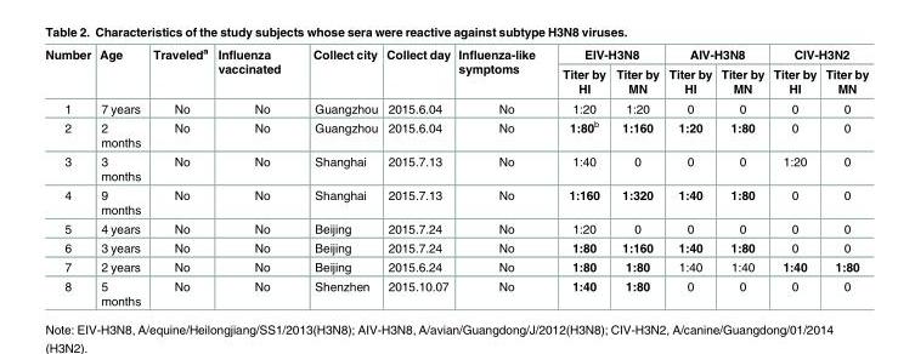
<table><thead><tr><td rowspan="2">Number</td><td rowspan="2">Age</td><td rowspan="2">Traveled<sup>a</sup></td><td rowspan="2">Influenza vaccinated</td><td rowspan="2">Collect city</td><td rowspan="2">Collect day</td><td rowspan="2">Influenza-like symptoms</td><td colspan="2">EIV-H3N8</td><td colspan="2">AIV-H3N8</td><td colspan="2">CIV-H3N2</td></tr><tr><td>Titer by HI</td><td>Titer by MN</td><td>Titer by HI</td><td>Titer by MN</td><td>Titer by HI</td><td>Titer by MN</td></tr></thead><tbody><tr><td>1</td><td>7 years</td><td>No</td><td>No</td><td>Guangzhou</td><td>2015.6.04</td><td>No</td><td>1:20</td><td>1:20</td><td>0</td><td>0</td><td>0</td><td>0</td></tr><tr><td>2</td><td>2 months</td><td>No</td><td>No</td><td>Guangzhou</td><td>2015.6.04</td><td>No</td><td>1:80<sup>b</sup></td><td>1:160</td><td>1:20</td><td>1:80</td><td>0</td><td>0</td></tr><tr><td>3</td><td>3 months</td><td>No</td><td>No</td><td>Shanghai</td><td>2015.7.13</td><td>No</td><td>1:40</td><td>0</td><td>0</td><td>0</td><td>1:20</td><td>0</td></tr><tr><td>4</td><td>9 months</td><td>No</td><td>No</td><td>Shanghai</td><td>2015.7.13</td><td>No</td><td>1:160</td><td>1:320</td><td>1:40</td><td>1:80</td><td>0</td><td>0</td></tr><tr><td>5</td><td>4 years</td><td>No</td><td>No</td><td>Beijing</td><td>2015.7.24</td><td>No</td><td>1:20</td><td>0</td><td>0</td><td>0</td><td>0</td><td>0</td></tr><tr><td>6</td><td>3 years</td><td>No</td><td>No</td><td>Beijing</td><td>2015.7.24</td><td>No</td><td>1:80</td><td>1:160</td><td>1:40</td><td>1:80</td><td>0</td><td>0</td></tr><tr><td>7</td><td>2 years</td><td>No</td><td>No</td><td>Beijing</td><td>2015.6.24</td><td>No</td><td>1:80</td><td>1:80</td><td>1:40</td><td>1:40</td><td>1:40</td><td>1:80</td></tr><tr><td>8</td><td>5 months</td><td>No</td><td>No</td><td>Shenzhen</td><td>2015.10.07</td><td>No</td><td>1:40</td><td>1:80</td><td>0</td><td>0</td><td>0</td><td>0</td></tr></tbody></table>